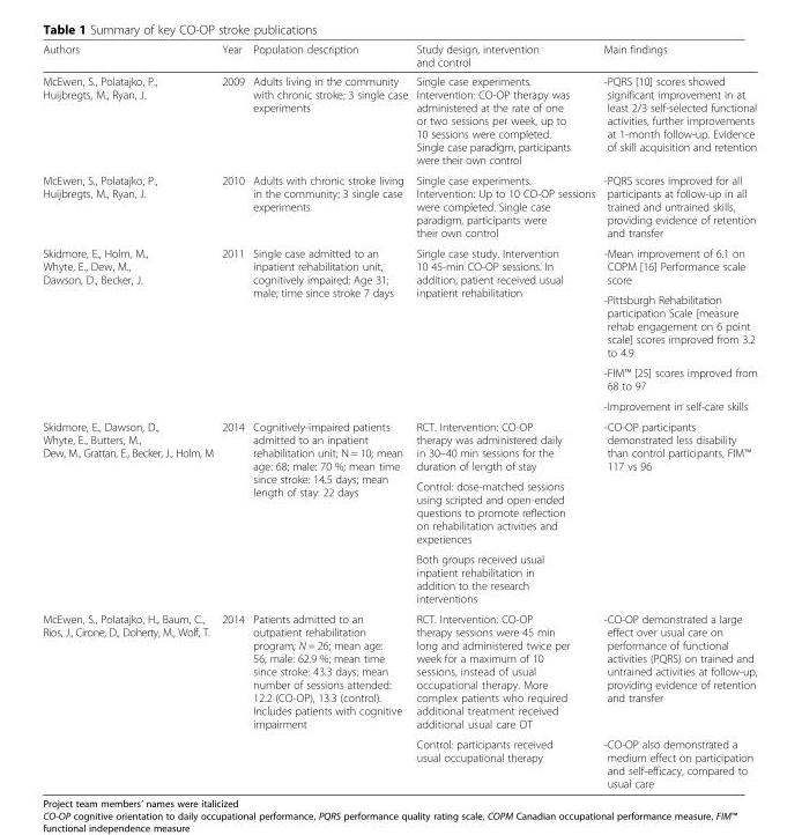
<table><thead><tr><td>Authors</td><td>Year</td><td>Population description</td><td>Study design, intervention and control</td><td>Main findings</td></tr></thead><tbody><tr><td>McEwen, S., Polatajko, P., Huijbregts, M., Ryan, J.</td><td>2009</td><td>Adults living in the community with chronic stroke; 3 single case experiments</td><td>Single case experiments. Intervention: CO-OP therapy was administered at the rate of one or two sessions per week, up to 10 sessions were completed. Single case paradigm, participants were their own control</td><td>-PQRS [10] scores showed significant improvement in at least 2/3 self-selected functional activities, further improvements at 1-month follow-up. Evidence of skill acquisition and retention</td></tr><tr><td>McEwen, S., Polatajko, P., Huijbregts, M., Ryan, J.</td><td>2010</td><td>Adults with chronic stroke living in the community; 3 single case experiments</td><td>Single case experiments. Intervention: Up to 10 CO-OP sessions were completed. Single case paradigm, participants were their own control</td><td>-PQRS scores improved for all participants at follow-up in all trained and untrained skills, providing evidence of retention and transfer</td></tr><tr><td rowspan="4">Skidmore, E., Holm, M., Whyte, E., Dew, M., Dawson, D., Becker, J.</td><td rowspan="4">2011</td><td rowspan="4">Single case admitted to an inpatient rehabilitation unit, cognitively impaired; Age 31; male; time since stroke 7 days</td><td rowspan="4">Single case study. Intervention 10 45-min CO-OP sessions. In addition, patient received usual inpatient rehabilitation</td><td>-Mean improvement of 6.1 on COPM [16] Performance scale score</td></tr><tr><td>-Pittsburgh Rehabilitation participation Scale [measure rehab engagement on 6 point scale] scores improved from 3.2 to 4.9</td></tr><tr><td>-FIM™ [25] scores improved from 68 to 97</td></tr><tr><td>-Improvement in self-care skills</td></tr><tr><td rowspan="3">Skidmore, E., Dawson, D., Whyte, E., Butters, M., Dew, M., Grattan, E., Becker, J., Holm, M</td><td rowspan="3">2014</td><td rowspan="3">Cognitively-impaired patients admitted to an inpatient rehabilitation unit; N = 10; mean age: 68; male: 70 %; mean time since stroke: 14.5 days; mean length of stay: 22 days</td><td>RCT. Intervention: CO-OP therapy was administered daily in 30–40 min sessions for the duration of length of stay</td><td rowspan="3">-CO-OP participants demonstrated less disability than control participants, FIM™ 117 vs 96</td></tr><tr><td>Control: dose-matched sessions using scripted and open-ended questions to promote reflection on rehabilitation activities and experiences</td></tr><tr><td>Both groups received usual inpatient rehabilitation in addition to the research interventions</td></tr><tr><td rowspan="2">McEwen, S., Polatajko, H., Baum, C., Rios, J., Cirone, D., Doherty, M., Wolf, T.</td><td rowspan="2">2014</td><td rowspan="2">Patients admitted to an outpatient rehabilitation program; N = 26; mean age: 56; male: 62.9 %; mean time since stroke: 43.3 days; mean number of sessions attended: 12.2 (CO-OP), 13.3 (control). Includes patients with cognitive impairment</td><td>RCT. Intervention: CO-OP therapy sessions were 45 min long and administered twice per week for a maximum of 10 sessions, instead of usual occupational therapy. More complex patients who required additional treatment received additional usual care OT</td><td>-CO-OP demonstrated a large effect over usual care on performance of functional activities (PQRS) on trained and untrained activities at follow-up, providing evidence of retention and transfer</td></tr><tr><td>Control: participants received usual occupational therapy</td><td>-CO-OP also demonstrated a medium effect on participation and self-efficacy, compared to usual care</td></tr></tbody></table>